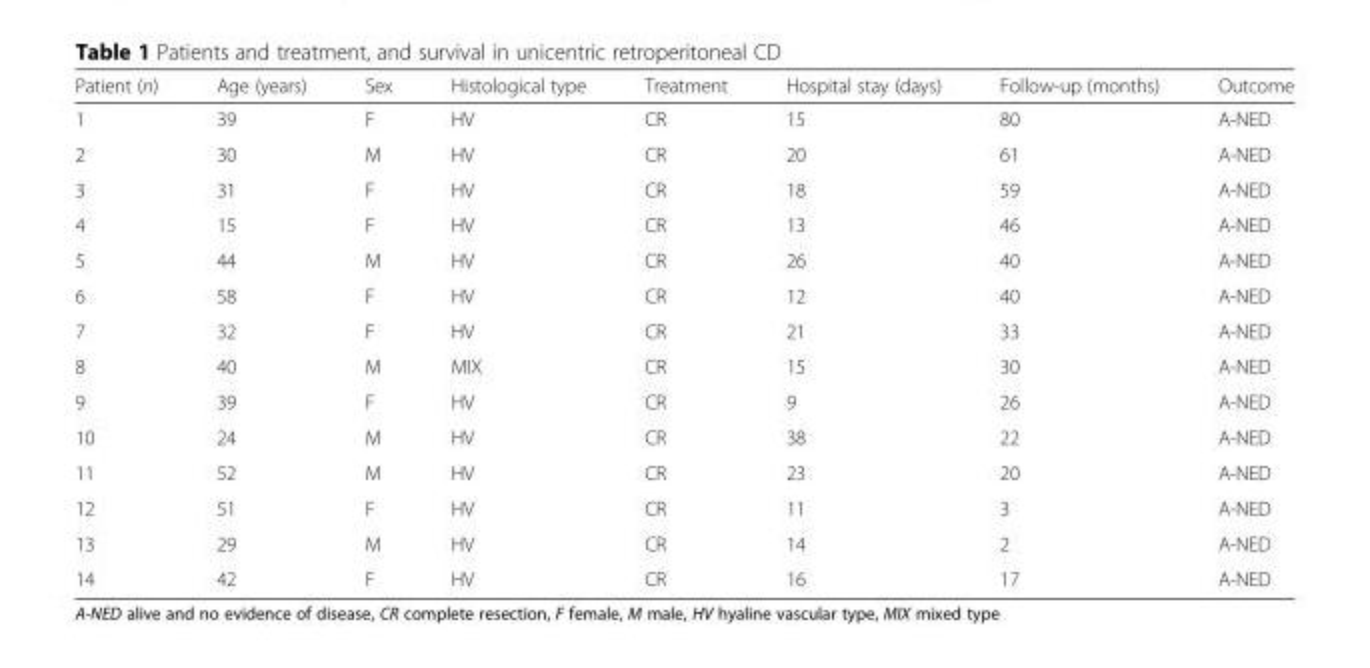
<table><thead><tr><td>Patient (n)</td><td>Age (years)</td><td>Sex</td><td>Histological type</td><td>Treatment</td><td>Hospital stay (days)</td><td>Follow-up (months)</td><td>Outcome</td></tr></thead><tbody><tr><td>1</td><td>39</td><td>F</td><td>HV</td><td>CR</td><td>15</td><td>80</td><td>A-NED</td></tr><tr><td>2</td><td>30</td><td>M</td><td>HV</td><td>CR</td><td>20</td><td>61</td><td>A-NED</td></tr><tr><td>3</td><td>31</td><td>F</td><td>HV</td><td>CR</td><td>18</td><td>59</td><td>A-NED</td></tr><tr><td>4</td><td>15</td><td>F</td><td>HV</td><td>CR</td><td>13</td><td>46</td><td>A-NED</td></tr><tr><td>5</td><td>44</td><td>M</td><td>HV</td><td>CR</td><td>26</td><td>40</td><td>A-NED</td></tr><tr><td>6</td><td>58</td><td>F</td><td>HV</td><td>CR</td><td>12</td><td>40</td><td>A-NED</td></tr><tr><td>7</td><td>32</td><td>F</td><td>HV</td><td>CR</td><td>21</td><td>33</td><td>A-NED</td></tr><tr><td>8</td><td>40</td><td>M</td><td>MIX</td><td>CR</td><td>15</td><td>30</td><td>A-NED</td></tr><tr><td>9</td><td>39</td><td>F</td><td>HV</td><td>CR</td><td>9</td><td>26</td><td>A-NED</td></tr><tr><td>10</td><td>24</td><td>M</td><td>HV</td><td>CR</td><td>38</td><td>22</td><td>A-NED</td></tr><tr><td>11</td><td>52</td><td>M</td><td>HV</td><td>CR</td><td>23</td><td>20</td><td>A-NED</td></tr><tr><td>12</td><td>51</td><td>F</td><td>HV</td><td>CR</td><td>11</td><td>3</td><td>A-NED</td></tr><tr><td>13</td><td>29</td><td>M</td><td>HV</td><td>CR</td><td>14</td><td>2</td><td>A-NED</td></tr><tr><td>14</td><td>42</td><td>F</td><td>HV</td><td>CR</td><td>16</td><td>17</td><td>A-NED</td></tr></tbody></table>